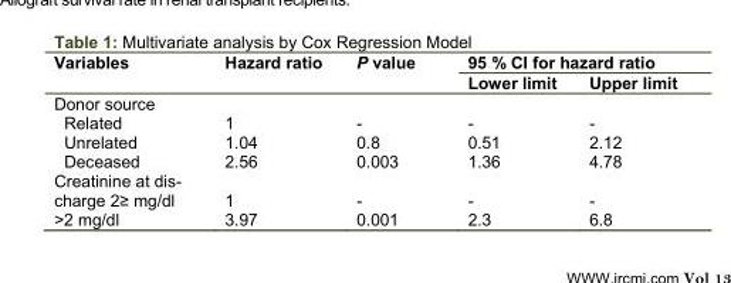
<table><thead><tr><td rowspan="2">Variables</td><td rowspan="2">Hazard ratio</td><td rowspan="2">P value</td><td colspan="2">95 % CI for hazard ratio</td></tr><tr><td>Lower limit</td><td>Upper limit</td></tr></thead><tbody><tr><td colspan="5">Donor source</td></tr><tr><td>Related</td><td>1</td><td>-</td><td>-</td><td>-</td></tr><tr><td>Unrelated</td><td>1.04</td><td>0.8</td><td>0.51</td><td>2.12</td></tr><tr><td>Deceased</td><td>2.56</td><td>0.003</td><td>1.36</td><td>4.78</td></tr><tr><td>Creatinine at dis- charge 2≥ mg/dl</td><td>1</td><td>-</td><td>-</td><td>-</td></tr><tr><td>&gt;2 mg/dl</td><td>3.97</td><td>0.001</td><td>2.3</td><td>6.8</td></tr></tbody></table>